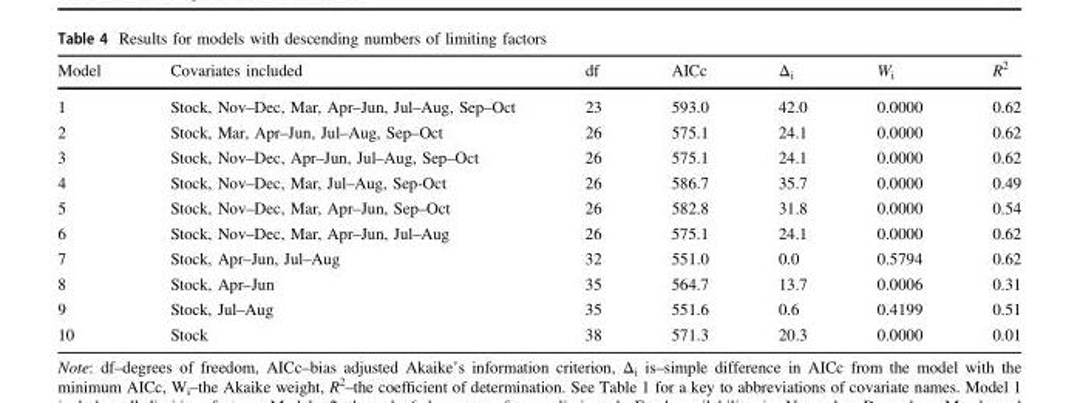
<table><thead><tr><td>Model</td><td>Covariates included</td><td>df</td><td>AICc</td><td>Δ<sub>i</sub></td><td>W<sub>i</sub></td><td>R<sup>2</sup></td></tr></thead><tbody><tr><td>1</td><td>Stock, Nov–Dec, Mar, Apr–Jun, Jul–Aug, Sep–Oct</td><td>23</td><td>593.0</td><td>42.0</td><td>0.0000</td><td>0.62</td></tr><tr><td>2</td><td>Stock, Mar, Apr–Jun, Jul–Aug, Sep–Oct</td><td>26</td><td>575.1</td><td>24.1</td><td>0.0000</td><td>0.62</td></tr><tr><td>3</td><td>Stock, Nov–Dec, Apr–Jun, Jul–Aug, Sep–Oct</td><td>26</td><td>575.1</td><td>24.1</td><td>0.0000</td><td>0.62</td></tr><tr><td>4</td><td>Stock, Nov–Dec, Mar, Jul–Aug, Sep-Oct</td><td>26</td><td>586.7</td><td>35.7</td><td>0.0000</td><td>0.49</td></tr><tr><td>5</td><td>Stock, Nov–Dec, Mar, Apr–Jun, Sep–Oct</td><td>26</td><td>582.8</td><td>31.8</td><td>0.0000</td><td>0.54</td></tr><tr><td>6</td><td>Stock, Nov–Dec, Mar, Apr–Jun, Jul–Aug</td><td>26</td><td>575.1</td><td>24.1</td><td>0.0000</td><td>0.62</td></tr><tr><td>7</td><td>Stock, Apr–Jun, Jul–Aug</td><td>32</td><td>551.0</td><td>0.0</td><td>0.5794</td><td>0.62</td></tr><tr><td>8</td><td>Stock, Apr–Jun</td><td>35</td><td>564.7</td><td>13.7</td><td>0.0006</td><td>0.31</td></tr><tr><td>9</td><td>Stock, Jul–Aug</td><td>35</td><td>551.6</td><td>0.6</td><td>0.4199</td><td>0.51</td></tr><tr><td>10</td><td>Stock</td><td>38</td><td>571.3</td><td>20.3</td><td>0.0000</td><td>0.01</td></tr></tbody></table>